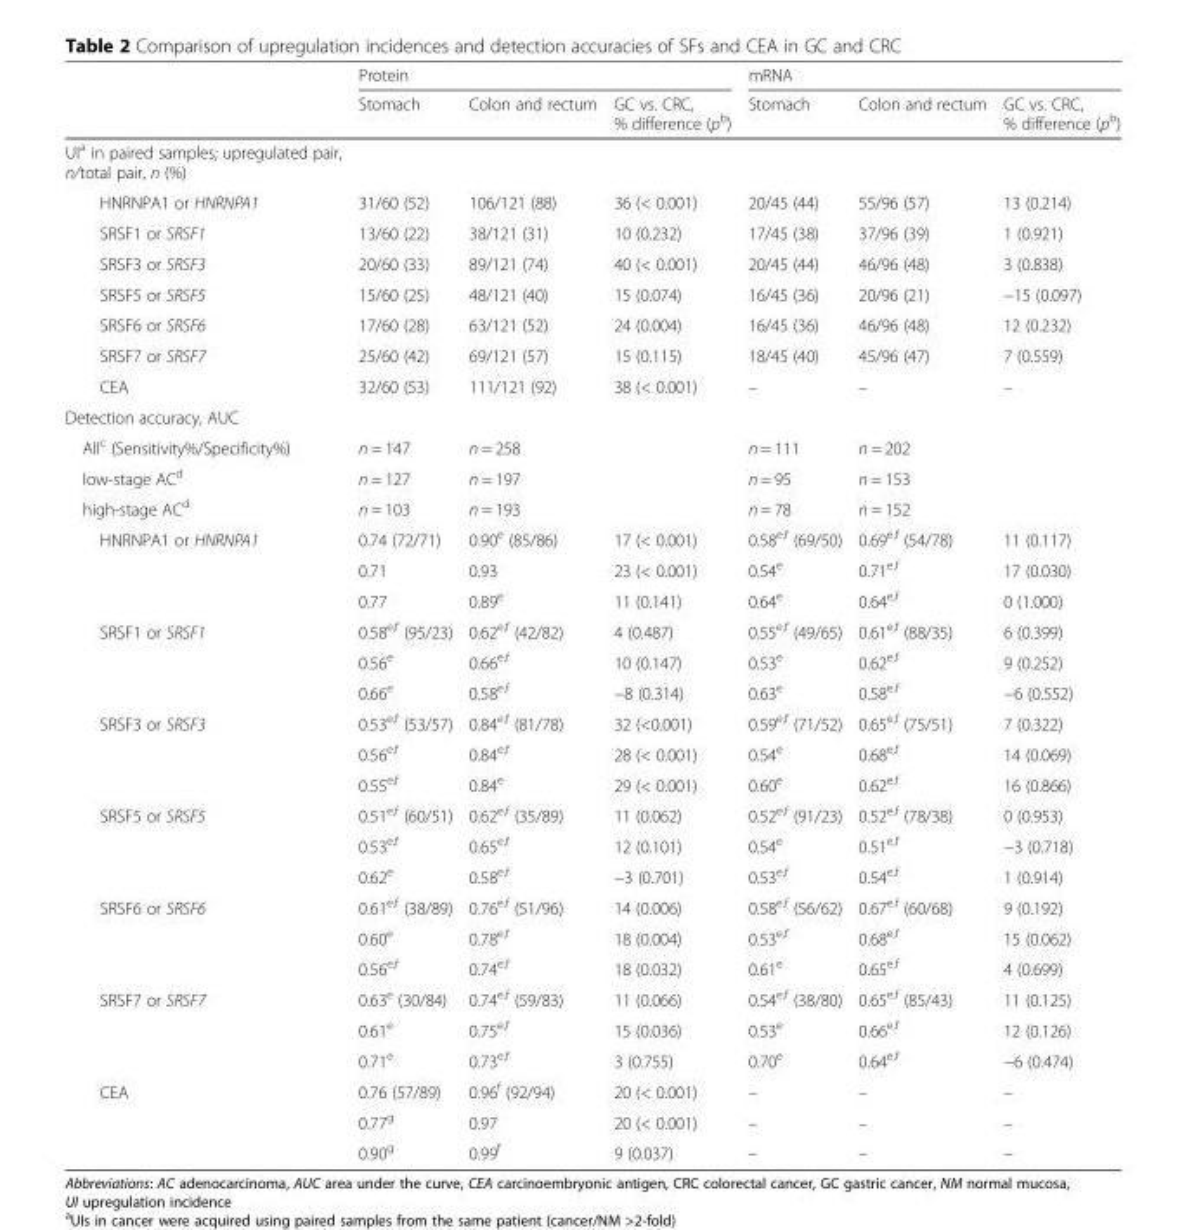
<table><thead><tr><td rowspan="2"></td><td colspan="3">Protein</td><td colspan="3">mRNA</td></tr><tr><td>Stomach</td><td>Colon and rectum</td><td>GC vs. CRC, % difference (p<sup>b</sup>)</td><td>Stomach</td><td>Colon and rectum</td><td>GC vs. CRC, % difference (p<sup>b</sup>)</td></tr></thead><tbody><tr><td colspan="7">UI<sup>a</sup> in paired samples; upregulated pair, n/total pair, n (%)</td></tr><tr><td>HNRNPA1 or HNRNPA1</td><td>31/60 (52)</td><td>106/121 (88)</td><td>36 (&lt; 0.001)</td><td>20/45 (44)</td><td>55/96 (57)</td><td>13 (0.214)</td></tr><tr><td>SRSF1 or SRSF1</td><td>13/60 (22)</td><td>38/121 (31)</td><td>10 (0.232)</td><td>17/45 (38)</td><td>37/96 (39)</td><td>1 (0.921)</td></tr><tr><td>SRSF3 or SRSF3</td><td>20/60 (33)</td><td>89/121 (74)</td><td>40 (&lt; 0.001)</td><td>20/45 (44)</td><td>46/96 (48)</td><td>3 (0.838)</td></tr><tr><td>SRSF5 or SRSF5</td><td>15/60 (25)</td><td>48/121 (40)</td><td>15 (0.074)</td><td>16/45 (36)</td><td>20/96 (21)</td><td>−15 (0.097)</td></tr><tr><td>SRSF6 or SRSF6</td><td>17/60 (28)</td><td>63/121 (52)</td><td>24 (0.004)</td><td>16/45 (36)</td><td>46/96 (48)</td><td>12 (0.232)</td></tr><tr><td>SRSF7 or SRSF7</td><td>25/60 (42)</td><td>69/121 (57)</td><td>15 (0.115)</td><td>18/45 (40)</td><td>45/96 (47)</td><td>7 (0.559)</td></tr><tr><td>CEA</td><td>32/60 (53)</td><td>111/121 (92)</td><td>38 (&lt; 0.001)</td><td>–</td><td>–</td><td>–</td></tr><tr><td colspan="7">Detection accuracy, AUC</td></tr><tr><td>All<sup>c</sup> (Sensitivity%/Specificity%)</td><td>n = 147</td><td>n = 258</td><td></td><td>n = 111</td><td>n = 202</td><td></td></tr><tr><td>low-stage AC<sup>d</sup></td><td>n = 127</td><td>n = 197</td><td></td><td>n = 95</td><td>n = 153</td><td></td></tr><tr><td>high-stage AC<sup>d</sup></td><td>n = 103</td><td>n = 193</td><td></td><td>n = 78</td><td>n = 152</td><td></td></tr><tr><td rowspan="3">HNRNPA1 or HNRNPA1</td><td>0.74 (72/71)</td><td>0.90<sup>e</sup> (85/86)</td><td>17 (&lt; 0.001)</td><td>0.58<sup>e,f</sup> (69/50)</td><td>0.69<sup>e,f</sup> (54/78)</td><td>11 (0.117)</td></tr><tr><td>0.71</td><td>0.93</td><td>23 (&lt; 0.001)</td><td>0.54<sup>e</sup></td><td>0.71<sup>e,f</sup></td><td>17 (0.030)</td></tr><tr><td>0.77</td><td>0.89<sup>e</sup></td><td>11 (0.141)</td><td>0.64<sup>e</sup></td><td>0.64<sup>e,f</sup></td><td>0 (1.000)</td></tr><tr><td rowspan="3">SRSF1 or SRSF1</td><td>0.58<sup>e,f</sup> (95/23)</td><td>0.62<sup>e,f</sup> (42/82)</td><td>4 (0.487)</td><td>0.55<sup>e,f</sup> (49/65)</td><td>0.61<sup>e,f</sup> (88/35)</td><td>6 (0.399)</td></tr><tr><td>0.56<sup>e</sup></td><td>0.66<sup>e,f</sup></td><td>10 (0.147)</td><td>0.53<sup>e</sup></td><td>0.62<sup>e,f</sup></td><td>9 (0.252)</td></tr><tr><td>0.66<sup>e</sup></td><td>0.58<sup>e,f</sup></td><td>−8 (0.314)</td><td>0.63<sup>e</sup></td><td>0.58<sup>e,f</sup></td><td>−6 (0.552)</td></tr><tr><td rowspan="3">SRSF3 or SRSF3</td><td>0.53<sup>e,f</sup> (53/57)</td><td>0.84<sup>e,f</sup> (81/78)</td><td>32 (&lt;0.001)</td><td>0.59<sup>e,f</sup> (71/52)</td><td>0.65<sup>e,f</sup> (75/51)</td><td>7 (0.322)</td></tr><tr><td>0.56<sup>e,f</sup></td><td>0.84<sup>e,f</sup></td><td>28 (&lt; 0.001)</td><td>0.54<sup>e</sup></td><td>0.68<sup>e,f</sup></td><td>14 (0.069)</td></tr><tr><td>0.55<sup>e,f</sup></td><td>0.84<sup>e</sup></td><td>29 (&lt; 0.001)</td><td>0.60<sup>e</sup></td><td>0.62<sup>e,f</sup></td><td>16 (0.866)</td></tr><tr><td rowspan="3">SRSF5 or SRSF5</td><td>0.51<sup>e,f</sup> (60/51)</td><td>0.62<sup>e,f</sup> (35/89)</td><td>11 (0.062)</td><td>0.52<sup>e,f</sup> (91/23)</td><td>0.52<sup>e,f</sup> (78/38)</td><td>0 (0.953)</td></tr><tr><td>0.53<sup>e,f</sup></td><td>0.65<sup>e,f</sup></td><td>12 (0.101)</td><td>0.54<sup>e</sup></td><td>0.51<sup>e,f</sup></td><td>−3 (0.718)</td></tr><tr><td>0.62<sup>e</sup></td><td>0.58<sup>e,f</sup></td><td>−3 (0.701)</td><td>0.53<sup>e,f</sup></td><td>0.54<sup>e,f</sup></td><td>1 (0.914)</td></tr><tr><td rowspan="3">SRSF6 or SRSF6</td><td>0.61<sup>e,f</sup> (38/89)</td><td>0.76<sup>e,f</sup> (51/96)</td><td>14 (0.006)</td><td>0.58<sup>e,f</sup> (56/62)</td><td>0.67<sup>e,f</sup> (60/68)</td><td>9 (0.192)</td></tr><tr><td>0.60<sup>e</sup></td><td>0.78<sup>e,f</sup></td><td>18 (0.004)</td><td>0.53<sup>e,f</sup></td><td>0.68<sup>e,f</sup></td><td>15 (0.062)</td></tr><tr><td>0.56<sup>e,f</sup></td><td>0.74<sup>e,f</sup></td><td>18 (0.032)</td><td>0.61<sup>e</sup></td><td>0.65<sup>e,f</sup></td><td>4 (0.699)</td></tr><tr><td rowspan="3">SRSF7 or SRSF7</td><td>0.63<sup>e</sup> (30/84)</td><td>0.74<sup>e,f</sup> (59/83)</td><td>11 (0.066)</td><td>0.54<sup>e,f</sup> (38/80)</td><td>0.65<sup>e,f</sup> (85/43)</td><td>11 (0.125)</td></tr><tr><td>0.61<sup>e</sup></td><td>0.75<sup>e,f</sup></td><td>15 (0.036)</td><td>0.53<sup>e</sup></td><td>0.66<sup>e,f</sup></td><td>12 (0.126)</td></tr><tr><td>0.71<sup>e</sup></td><td>0.73<sup>e,f</sup></td><td>3 (0.755)</td><td>0.70<sup>e</sup></td><td>0.64<sup>e,f</sup></td><td>−6 (0.474)</td></tr><tr><td rowspan="3">CEA</td><td>0.76 (57/89)</td><td>0.96<sup>f</sup> (92/94)</td><td>20 (&lt; 0.001)</td><td>–</td><td>–</td><td>–</td></tr><tr><td>0.77<sup>g</sup></td><td>0.97</td><td>20 (&lt; 0.001)</td><td>–</td><td>–</td><td>–</td></tr><tr><td>0.90<sup>g</sup></td><td>0.99<sup>f</sup></td><td>9 (0.037)</td><td>–</td><td>–</td><td>–</td></tr></tbody></table>